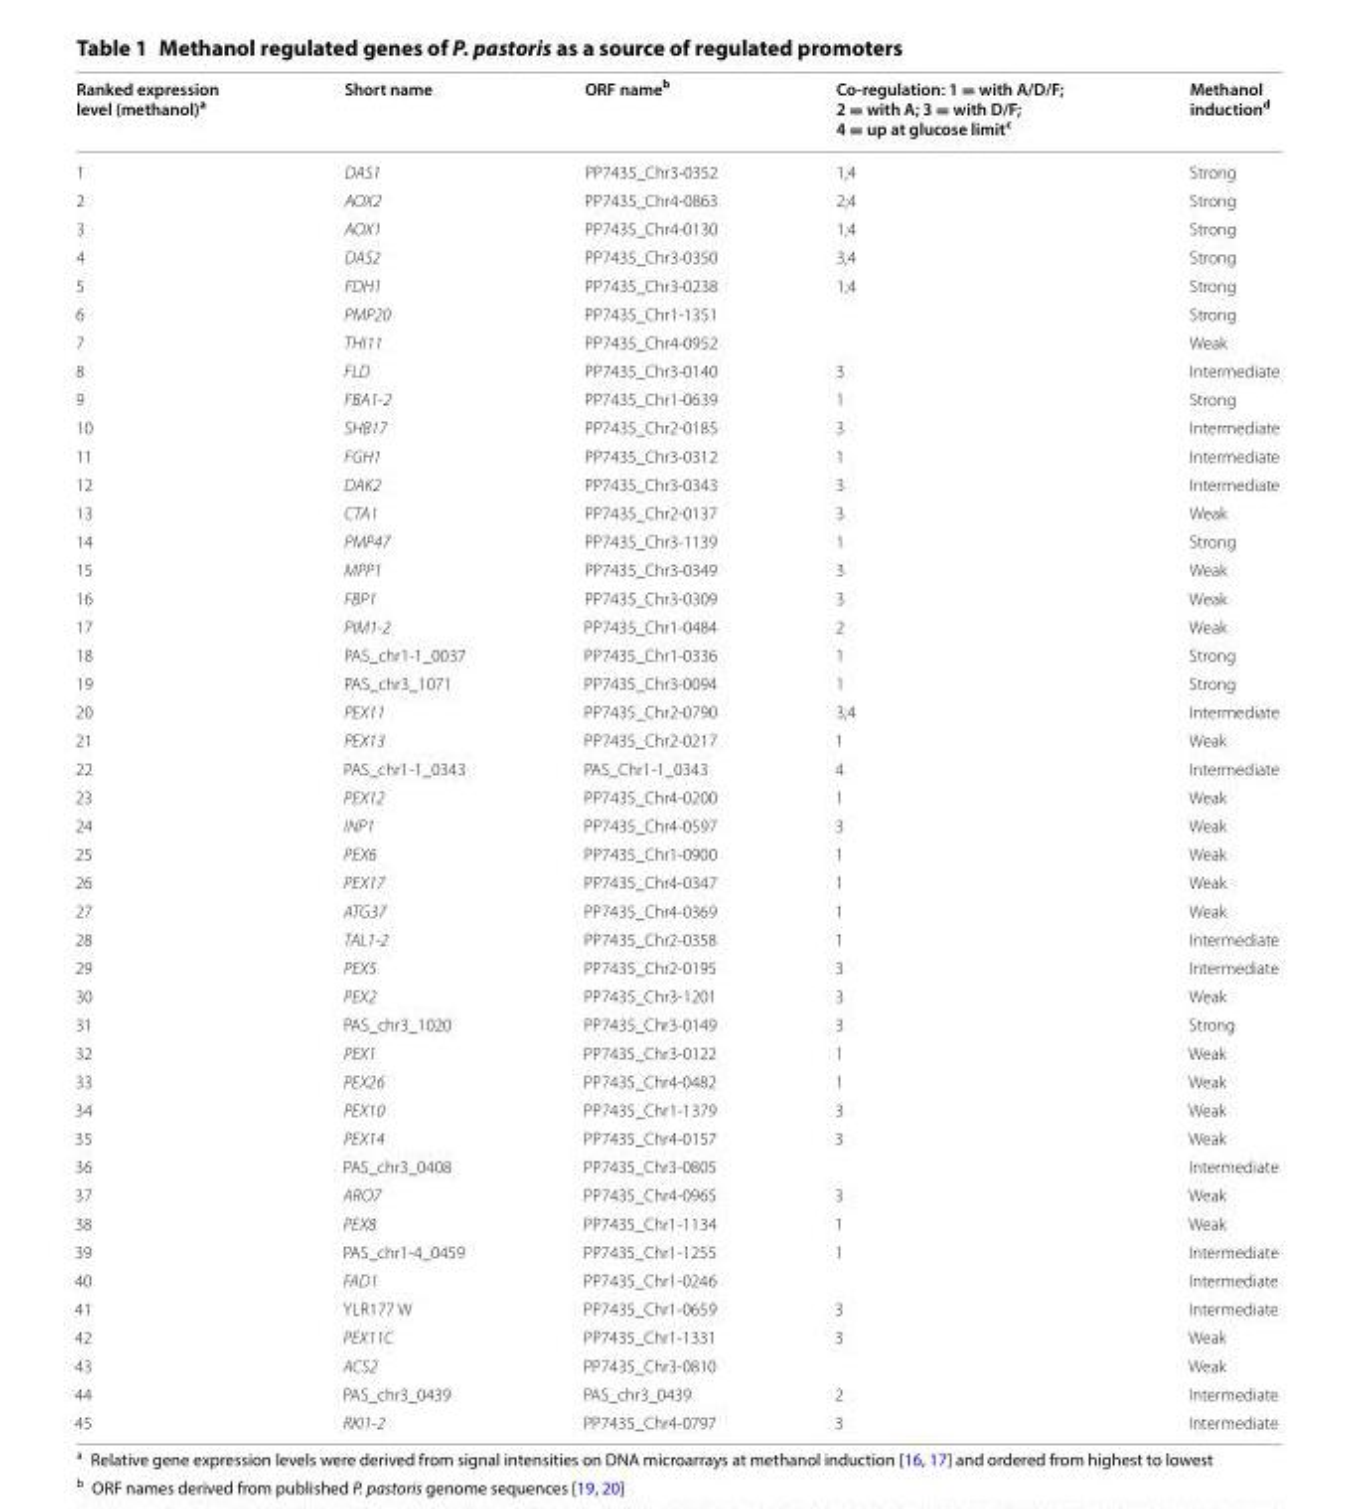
<table><thead><tr><td>Ranked expression level (methanol)<sup>a</sup></td><td>Short name</td><td>ORF name<sup>b</sup></td><td>Co-regulation: 1 = with A/D/F; 2 = with A; 3 = with D/F; 4 = up at glucose limit<sup>c</sup></td><td>Methanol induction<sup>d</sup></td></tr></thead><tbody><tr><td>1</td><td>DAS1</td><td>PP7435_Chr3-0352</td><td>1;4</td><td>Strong</td></tr><tr><td>2</td><td>AOX2</td><td>PP7435_Chr4-0863</td><td>2;4</td><td>Strong</td></tr><tr><td>3</td><td>AOX1</td><td>PP7435_Chr4-0130</td><td>1;4</td><td>Strong</td></tr><tr><td>4</td><td>DAS2</td><td>PP7435_Chr3-0350</td><td>3;4</td><td>Strong</td></tr><tr><td>5</td><td>FDH1</td><td>PP7435_Chr3-0238</td><td>1;4</td><td>Strong</td></tr><tr><td>6</td><td>PMP20</td><td>PP7435_Chr1-1351</td><td></td><td>Strong</td></tr><tr><td>7</td><td>THI11</td><td>PP7435_Chr4-0952</td><td></td><td>Weak</td></tr><tr><td>8</td><td>FLD</td><td>PP7435_Chr3-0140</td><td>3</td><td>Intermediate</td></tr><tr><td>9</td><td>FBA1-2</td><td>PP7435_Chr1-0639</td><td>1</td><td>Strong</td></tr><tr><td>10</td><td>SHB17</td><td>PP7435_Chr2-0185</td><td>3</td><td>Intermediate</td></tr><tr><td>11</td><td>FGH1</td><td>PP7435_Chr3-0312</td><td>1</td><td>Intermediate</td></tr><tr><td>12</td><td>DAK2</td><td>PP7435_Chr3-0343</td><td>3</td><td>Intermediate</td></tr><tr><td>13</td><td>CTA1</td><td>PP7435_Chr2-0137</td><td>3</td><td>Weak</td></tr><tr><td>14</td><td>PMP47</td><td>PP7435_Chr3-1139</td><td>1</td><td>Strong</td></tr><tr><td>15</td><td>MPP1</td><td>PP7435_Chr3-0349</td><td>3</td><td>Weak</td></tr><tr><td>16</td><td>FBP1</td><td>PP7435_Chr3-0309</td><td>3</td><td>Weak</td></tr><tr><td>17</td><td>PIM1-2</td><td>PP7435_Chr1-0484</td><td>2</td><td>Weak</td></tr><tr><td>18</td><td>PAS_chr1-1_0037</td><td>PP7435_Chr1-0336</td><td>1</td><td>Strong</td></tr><tr><td>19</td><td>PAS_chr3_1071</td><td>PP7435_Chr3-0094</td><td>1</td><td>Strong</td></tr><tr><td>20</td><td>PEX11</td><td>PP7435_Chr2-0790</td><td>3;4</td><td>Intermediate</td></tr><tr><td>21</td><td>PEX13</td><td>PP7435_Chr2-0217</td><td>1</td><td>Weak</td></tr><tr><td>22</td><td>PAS_chr1-1_0343</td><td>PAS_Chr1-1_0343</td><td>4</td><td>Intermediate</td></tr><tr><td>23</td><td>PEX12</td><td>PP7435_Chr4-0200</td><td>1</td><td>Weak</td></tr><tr><td>24</td><td>INP1</td><td>PP7435_Chr4-0597</td><td>3</td><td>Weak</td></tr><tr><td>25</td><td>PEX6</td><td>PP7435_Chr1-0900</td><td>1</td><td>Weak</td></tr><tr><td>26</td><td>PEX17</td><td>PP7435_Chr4-0347</td><td>1</td><td>Weak</td></tr><tr><td>27</td><td>ATG37</td><td>PP7435_Chr4-0369</td><td>1</td><td>Weak</td></tr><tr><td>28</td><td>TAL1-2</td><td>PP7435_Chr2-0358</td><td>1</td><td>Intermediate</td></tr><tr><td>29</td><td>PEX5</td><td>PP7435_Chr2-0195</td><td>3</td><td>Intermediate</td></tr><tr><td>30</td><td>PEX2</td><td>PP7435_Chr3-1201</td><td>3</td><td>Weak</td></tr><tr><td>31</td><td>PAS_chr3_1020</td><td>PP7435_Chr3-0149</td><td>3</td><td>Strong</td></tr><tr><td>32</td><td>PEX1</td><td>PP7435_Chr3-0122</td><td>1</td><td>Weak</td></tr><tr><td>33</td><td>PEX26</td><td>PP7435_Chr4-0482</td><td>1</td><td>Weak</td></tr><tr><td>34</td><td>PEX10</td><td>PP7435_Chr1-1379</td><td>3</td><td>Weak</td></tr><tr><td>35</td><td>PEX14</td><td>PP7435_Chr4-0157</td><td>3</td><td>Weak</td></tr><tr><td>36</td><td>PAS_chr3_0408</td><td>PP7435_Chr3-0805</td><td></td><td>Intermediate</td></tr><tr><td>37</td><td>ARO7</td><td>PP7435_Chr4-0965</td><td>3</td><td>Weak</td></tr><tr><td>38</td><td>PEX8</td><td>PP7435_Chr1-1134</td><td>1</td><td>Weak</td></tr><tr><td>39</td><td>PAS_chr1-4_0459</td><td>PP7435_Chr1-1255</td><td>1</td><td>Intermediate</td></tr><tr><td>40</td><td>FAD1</td><td>PP7435_Chr1-0246</td><td></td><td>Intermediate</td></tr><tr><td>41</td><td>YLR177 W</td><td>PP7435_Chr1-0659</td><td>3</td><td>Intermediate</td></tr><tr><td>42</td><td>PEX11C</td><td>PP7435_Chr1-1331</td><td>3</td><td>Weak</td></tr><tr><td>43</td><td>ACS2</td><td>PP7435_Chr3-0810</td><td></td><td>Weak</td></tr><tr><td>44</td><td>PAS_chr3_0439</td><td>PAS_chr3_0439</td><td>2</td><td>Intermediate</td></tr><tr><td>45</td><td>RKI1-2</td><td>PP7435_Chr4-0797</td><td>3</td><td>Intermediate</td></tr></tbody></table>